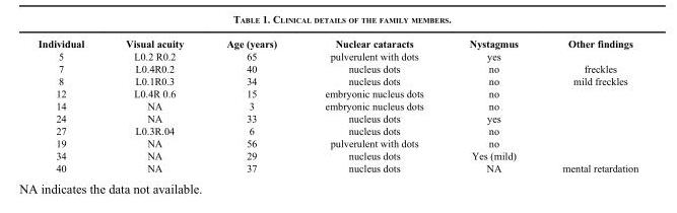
<table><thead><tr><td>Individual</td><td>Visual acuity</td><td>Age (years)</td><td>Nuclear cataracts</td><td>Nystagmus</td><td>Other findings</td></tr></thead><tbody><tr><td>5</td><td>L0.2 R0.2</td><td>65</td><td>pulverulent with dots</td><td>yes</td><td></td></tr><tr><td>7</td><td>L0.4R0.2</td><td>40</td><td>nucleus dots</td><td>no</td><td>freckles</td></tr><tr><td>8</td><td>L0.1R0.3</td><td>34</td><td>nucleus dots</td><td>no</td><td>mild freckles</td></tr><tr><td>12</td><td>L0.4R 0.6</td><td>15</td><td>embryonic nucleus dots</td><td>no</td><td></td></tr><tr><td>14</td><td>NA</td><td>3</td><td>embryonic nucleus dots</td><td>no</td><td></td></tr><tr><td>24</td><td>NA</td><td>33</td><td>nucleus dots</td><td>yes</td><td></td></tr><tr><td>27</td><td>L0.3R.04</td><td>6</td><td>nucleus dots</td><td>no</td><td></td></tr><tr><td>19</td><td>NA</td><td>56</td><td>pulverulent with dots</td><td>no</td><td></td></tr><tr><td>34</td><td>NA</td><td>29</td><td>nucleus dots</td><td>Yes (mild)</td><td></td></tr><tr><td>40</td><td>NA</td><td>37</td><td>nucleus dots</td><td>NA</td><td>mental retardation</td></tr></tbody></table>